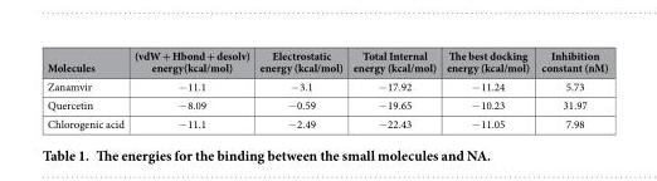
<table><thead><tr><td>Molecules</td><td>(vdW + Hbond + desolv) energy(kcal/mol)</td><td>Electrostatic energy (kcal/mol)</td><td>Total Internal energy (kcal/mol)</td><td>The best docking energy (kcal/mol)</td><td>Inhibition constant (nM)</td></tr></thead><tbody><tr><td>Zanamvir</td><td>− 11.1</td><td>− 3.1</td><td>− 17.92</td><td>− 11.24</td><td>5.73</td></tr><tr><td>Quercetin</td><td>− 8.09</td><td>− 0.59</td><td>− 19.65</td><td>− 10.23</td><td>31.97</td></tr><tr><td>Chlorogenic acid</td><td>− 11.1</td><td>− 2.49</td><td>− 22.43</td><td>− 11.05</td><td>7.98</td></tr></tbody></table>